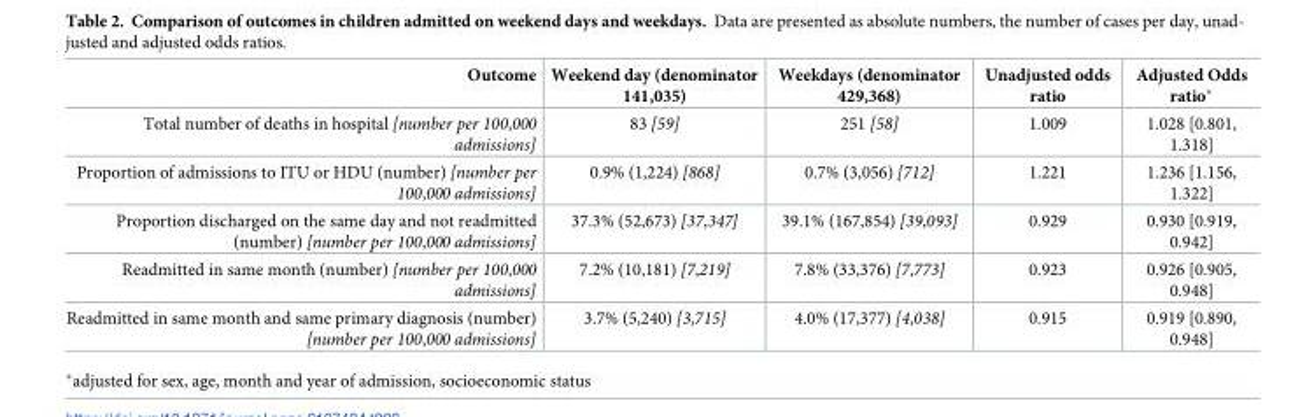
<table><thead><tr><td>Outcome</td><td>Weekend day (denominator 141,035)</td><td>Weekdays (denominator 429,368)</td><td>Unadjusted odds ratio</td><td>Adjusted Odds ratio*</td></tr></thead><tbody><tr><td>Total number of deaths in hospital [number per 100,000 admissions]</td><td>83 [59]</td><td>251 [58]</td><td>1.009</td><td>1.028 [0.801, 1.318]</td></tr><tr><td>Proportion of admissions to ITU or HDU (number) [number per 100,000 admissions]</td><td>0.9% (1,224) [868]</td><td>0.7% (3,056) [712]</td><td>1.221</td><td>1.236 [1.156, 1.322]</td></tr><tr><td>Proportion discharged on the same day and not readmitted (number) [number per 100,000 admissions]</td><td>37.3% (52,673) [37,347]</td><td>39.1% (167,854) [39,093]</td><td>0.929</td><td>0.930 [0.919, 0.942]</td></tr><tr><td>Readmitted in same month (number) [number per 100,000 admissions]</td><td>7.2% (10,181) [7,219]</td><td>7.8% (33,376) [7,773]</td><td>0.923</td><td>0.926 [0.905, 0.948]</td></tr><tr><td>Readmitted in same month and same primary diagnosis (number) [number per 100,000 admissions]</td><td>3.7% (5,240) [3,715]</td><td>4.0% (17,377) [4,038]</td><td>0.915</td><td>0.919 [0.890, 0.948]</td></tr></tbody></table>